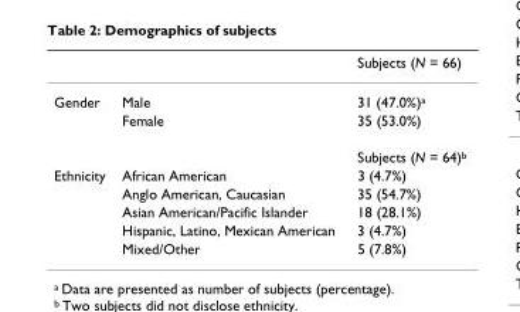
<table><thead><tr><td></td><td></td><td>Subjects (N = 66)</td></tr></thead><tbody><tr><td rowspan="3">Gender</td><td>Male</td><td>31 (47.0%)<sup>a</sup></td></tr><tr><td>Female</td><td>35 (53.0%)</td></tr><tr><td></td><td>Subjects (N = 64)<sup>b</sup></td></tr><tr><td rowspan="5">Ethnicity</td><td>African American</td><td>3 (4.7%)</td></tr><tr><td>Anglo American, Caucasian</td><td>35 (54.7%)</td></tr><tr><td>Asian American/Pacific Islander</td><td>18 (28.1%)</td></tr><tr><td>Hispanic, Latino, Mexican American</td><td>3 (4.7%)</td></tr><tr><td>Mixed/Other</td><td>5 (7.8%)</td></tr></tbody></table>